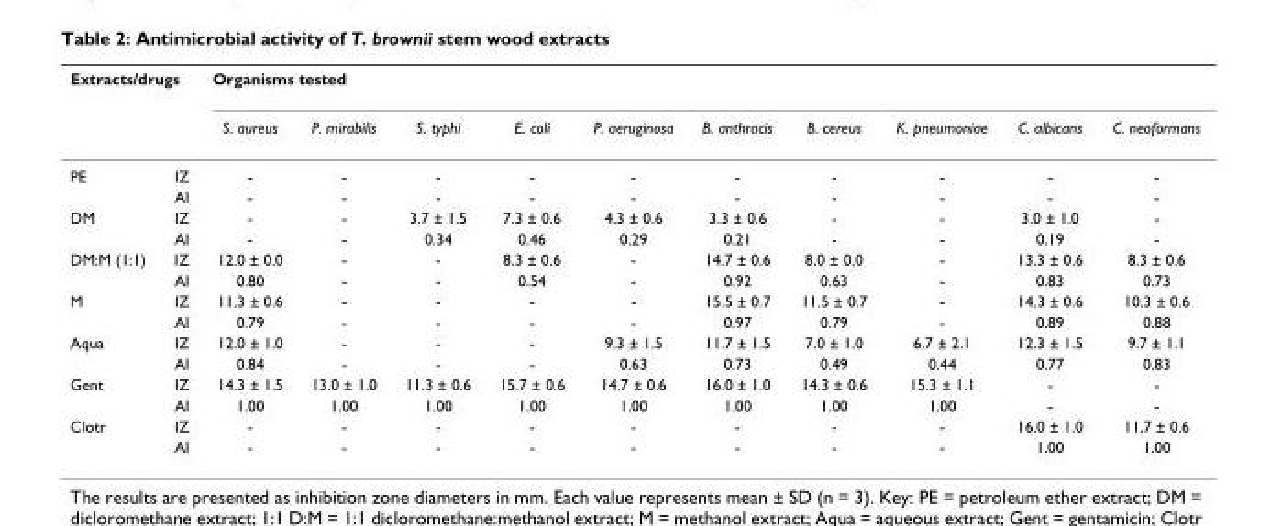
<table><thead><tr><td colspan="2">Extracts/drugs</td><td colspan="10">Organisms tested</td></tr><tr><td></td><td></td><td>S. aureus</td><td>P. mirabilis</td><td>S. typhi</td><td>E. coli</td><td>P. aeruginosa</td><td>B. anthracis</td><td>B. cereus</td><td>K. pneumoniae</td><td>C. albicans</td><td>C. neoformans</td></tr></thead><tbody><tr><td rowspan="2">PE</td><td>IZ</td><td>-</td><td>-</td><td>-</td><td>-</td><td>-</td><td>-</td><td>-</td><td>-</td><td>-</td><td>-</td></tr><tr><td>AI</td><td>-</td><td>-</td><td>-</td><td>-</td><td>-</td><td>-</td><td>-</td><td>-</td><td>-</td><td>-</td></tr><tr><td rowspan="2">DM</td><td>IZ</td><td>-</td><td>-</td><td>3.7 ± 1.5</td><td>7.3 ± 0.6</td><td>4.3 ± 0.6</td><td>3.3 ± 0.6</td><td>-</td><td>-</td><td>3.0 ± 1.0</td><td>-</td></tr><tr><td>AI</td><td>-</td><td>-</td><td>0.34</td><td>0.46</td><td>0.29</td><td>0.21</td><td>-</td><td>-</td><td>0.19</td><td>-</td></tr><tr><td rowspan="2">DM:M (1:1)</td><td>IZ</td><td>12.0 ± 0.0</td><td>-</td><td>-</td><td>8.3 ± 0.6</td><td>-</td><td>14.7 ± 0.6</td><td>8.0 ± 0.0</td><td>-</td><td>13.3 ± 0.6</td><td>8.3 ± 0.6</td></tr><tr><td>AI</td><td>0.80</td><td>-</td><td>-</td><td>0.54</td><td>-</td><td>0.92</td><td>0.63</td><td>-</td><td>0.83</td><td>0.73</td></tr><tr><td rowspan="2">M</td><td>IZ</td><td>11.3 ± 0.6</td><td>-</td><td>-</td><td>-</td><td>-</td><td>15.5 ± 0.7</td><td>11.5 ± 0.7</td><td>-</td><td>14.3 ± 0.6</td><td>10.3 ± 0.6</td></tr><tr><td>AI</td><td>0.79</td><td>-</td><td>-</td><td>-</td><td>-</td><td>0.97</td><td>0.79</td><td>-</td><td>0.89</td><td>0.88</td></tr><tr><td rowspan="2">Aqua</td><td>IZ</td><td>12.0 ± 1.0</td><td>-</td><td>-</td><td>-</td><td>9.3 ± 1.5</td><td>11.7 ± 1.5</td><td>7.0 ± 1.0</td><td>6.7 ± 2.1</td><td>12.3 ± 1.5</td><td>9.7 ± 1.1</td></tr><tr><td>AI</td><td>0.84</td><td>-</td><td>-</td><td>-</td><td>0.63</td><td>0.73</td><td>0.49</td><td>0.44</td><td>0.77</td><td>0.83</td></tr><tr><td rowspan="2">Gent</td><td>IZ</td><td>14.3 ± 1.5</td><td>13.0 ± 1.0</td><td>11.3 ± 0.6</td><td>15.7 ± 0.6</td><td>14.7 ± 0.6</td><td>16.0 ± 1.0</td><td>14.3 ± 0.6</td><td>15.3 ± 1.1</td><td>-</td><td>-</td></tr><tr><td>AI</td><td>1.00</td><td>1.00</td><td>1.00</td><td>1.00</td><td>1.00</td><td>1.00</td><td>1.00</td><td>1.00</td><td>-</td><td>-</td></tr><tr><td rowspan="2">Clotr</td><td>IZ</td><td>-</td><td>-</td><td>-</td><td>-</td><td>-</td><td>-</td><td>-</td><td>-</td><td>16.0 ± 1.0</td><td>11.7 ± 0.6</td></tr><tr><td>AI</td><td>-</td><td>-</td><td>-</td><td>-</td><td>-</td><td>-</td><td>-</td><td>-</td><td>1.00</td><td>1.00</td></tr></tbody></table>